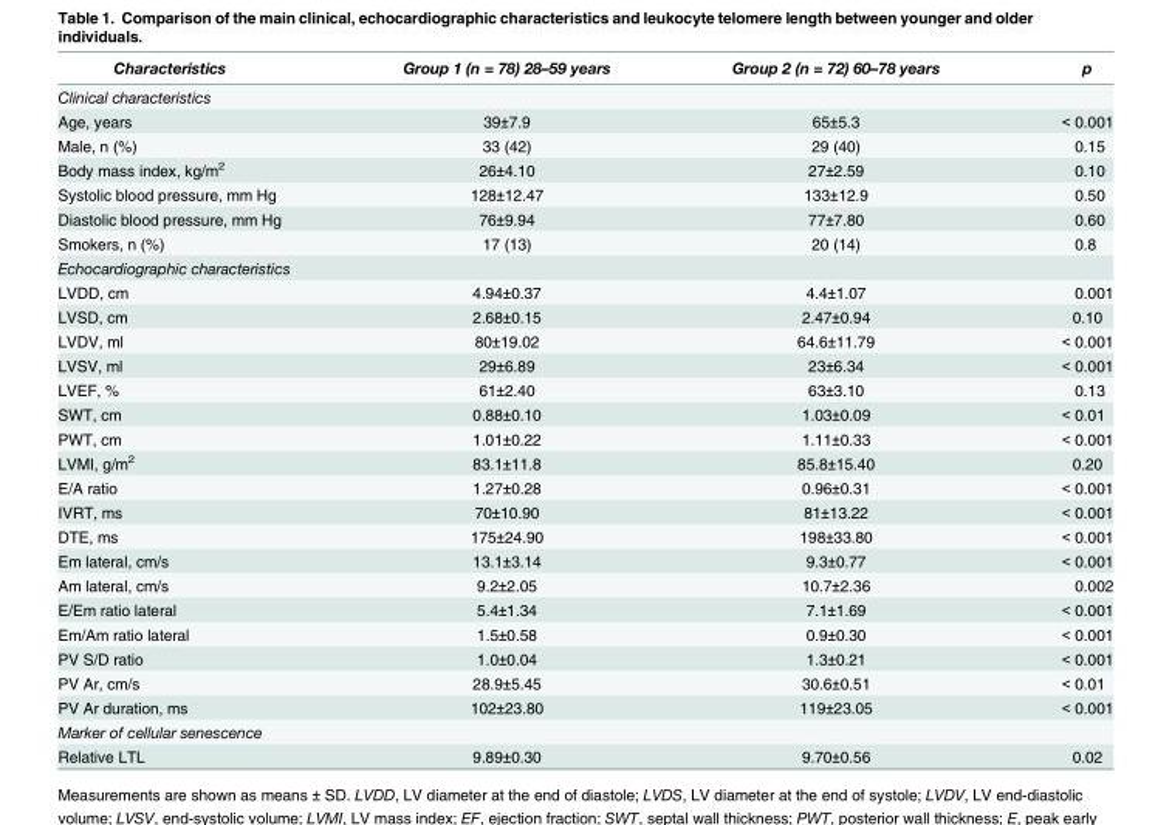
<table><thead><tr><td>Characteristics</td><td>Group 1 (n = 78) 28–59 years</td><td>Group 2 (n = 72) 60–78 years</td><td>p</td></tr></thead><tbody><tr><td colspan="4">Clinical characteristics</td></tr><tr><td>Age, years</td><td>39±7.9</td><td>65±5.3</td><td>&lt; 0.001</td></tr><tr><td>Male, n (%)</td><td>33 (42)</td><td>29 (40)</td><td>0.15</td></tr><tr><td>Body mass index, kg/m<sup>2</sup></td><td>26±4.10</td><td>27±2.59</td><td>0.10</td></tr><tr><td>Systolic blood pressure, mm Hg</td><td>128±12.47</td><td>133±12.9</td><td>0.50</td></tr><tr><td>Diastolic blood pressure, mm Hg</td><td>76±9.94</td><td>77±7.80</td><td>0.60</td></tr><tr><td>Smokers, n (%)</td><td>17 (13)</td><td>20 (14)</td><td>0.8</td></tr><tr><td colspan="4">Echocardiographic characteristics</td></tr><tr><td>LVDD, cm</td><td>4.94±0.37</td><td>4.4±1.07</td><td>0.001</td></tr><tr><td>LVSD, cm</td><td>2.68±0.15</td><td>2.47±0.94</td><td>0.10</td></tr><tr><td>LVDV, ml</td><td>80±19.02</td><td>64.6±11.79</td><td>&lt; 0.001</td></tr><tr><td>LVSV, ml</td><td>29±6.89</td><td>23±6.34</td><td>&lt; 0.001</td></tr><tr><td>LVEF, %</td><td>61±2.40</td><td>63±3.10</td><td>0.13</td></tr><tr><td>SWT, cm</td><td>0.88±0.10</td><td>1.03±0.09</td><td>&lt; 0.01</td></tr><tr><td>PWT, cm</td><td>1.01±0.22</td><td>1.11±0.33</td><td>&lt; 0.001</td></tr><tr><td>LVMI, g/m<sup>2</sup></td><td>83.1±11.8</td><td>85.8±15.40</td><td>0.20</td></tr><tr><td>E/A ratio</td><td>1.27±0.28</td><td>0.96±0.31</td><td>&lt; 0.001</td></tr><tr><td>IVRT, ms</td><td>70±10.90</td><td>81±13.22</td><td>&lt; 0.001</td></tr><tr><td>DTE, ms</td><td>175±24.90</td><td>198±33.80</td><td>&lt; 0.001</td></tr><tr><td>Em lateral, cm/s</td><td>13.1±3.14</td><td>9.3±0.77</td><td>&lt; 0.001</td></tr><tr><td>Am lateral, cm/s</td><td>9.2±2.05</td><td>10.7±2.36</td><td>0.002</td></tr><tr><td>E/Em ratio lateral</td><td>5.4±1.34</td><td>7.1±1.69</td><td>&lt; 0.001</td></tr><tr><td>Em/Am ratio lateral</td><td>1.5±0.58</td><td>0.9±0.30</td><td>&lt; 0.001</td></tr><tr><td>PV S/D ratio</td><td>1.0±0.04</td><td>1.3±0.21</td><td>&lt; 0.001</td></tr><tr><td>PV Ar, cm/s</td><td>28.9±5.45</td><td>30.6±0.51</td><td>&lt; 0.01</td></tr><tr><td>PV Ar duration, ms</td><td>102±23.80</td><td>119±23.05</td><td>&lt; 0.001</td></tr><tr><td colspan="4">Marker of cellular senescence</td></tr><tr><td>Relative LTL</td><td>9.89±0.30</td><td>9.70±0.56</td><td>0.02</td></tr></tbody></table>